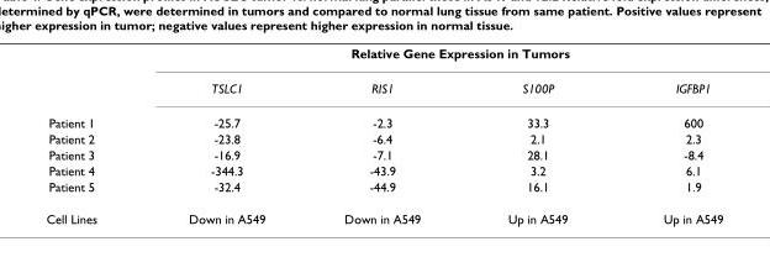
<table><thead><tr><td rowspan="2"></td><td colspan="4">Relative Gene Expression in Tumors</td></tr><tr><td>TSLC1</td><td>RIS1</td><td>S100P</td><td>IGFBP1</td></tr></thead><tbody><tr><td>Patient 1</td><td>-25.7</td><td>-2.3</td><td>33.3</td><td>600</td></tr><tr><td>Patient 2</td><td>-23.8</td><td>-6.4</td><td>2.1</td><td>2.3</td></tr><tr><td>Patient 3</td><td>-16.9</td><td>-7.1</td><td>28.1</td><td>-8.4</td></tr><tr><td>Patient 4</td><td>-344.3</td><td>-43.9</td><td>3.2</td><td>6.1</td></tr><tr><td>Patient 5</td><td>-32.4</td><td>-44.9</td><td>16.1</td><td>1.9</td></tr><tr><td>Cell Lines</td><td>Down in A549</td><td>Down in A549</td><td>Up in A549</td><td>Up in A549</td></tr></tbody></table>